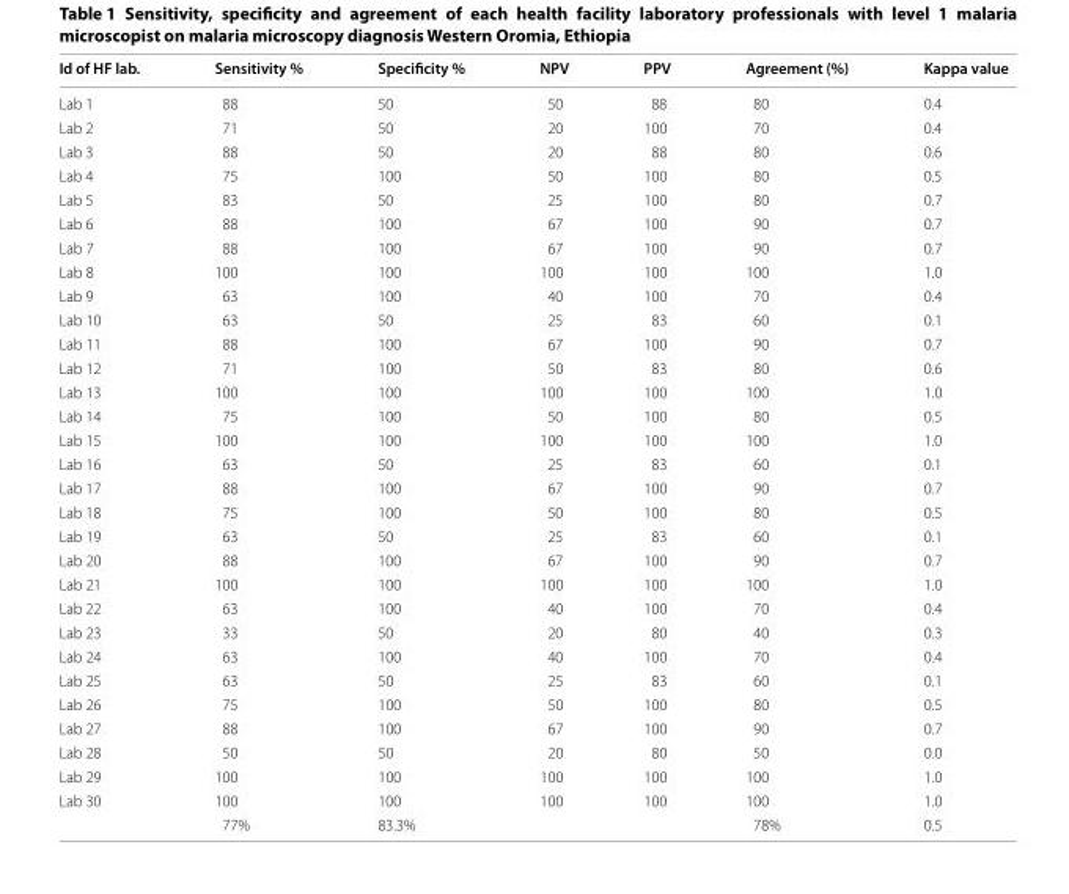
<table><thead><tr><td>Id of HF lab.</td><td>Sensitivity %</td><td>Specificity %</td><td>NPV</td><td>PPV</td><td>Agreement (%)</td><td>Kappa value</td></tr></thead><tbody><tr><td>Lab 1</td><td>88</td><td>50</td><td>50</td><td>88</td><td>80</td><td>0.4</td></tr><tr><td>Lab 2</td><td>71</td><td>50</td><td>20</td><td>100</td><td>70</td><td>0.4</td></tr><tr><td>Lab 3</td><td>88</td><td>50</td><td>20</td><td>88</td><td>80</td><td>0.6</td></tr><tr><td>Lab 4</td><td>75</td><td>100</td><td>50</td><td>100</td><td>80</td><td>0.5</td></tr><tr><td>Lab 5</td><td>83</td><td>50</td><td>25</td><td>100</td><td>80</td><td>0.7</td></tr><tr><td>Lab 6</td><td>88</td><td>100</td><td>67</td><td>100</td><td>90</td><td>0.7</td></tr><tr><td>Lab 7</td><td>88</td><td>100</td><td>67</td><td>100</td><td>90</td><td>0.7</td></tr><tr><td>Lab 8</td><td>100</td><td>100</td><td>100</td><td>100</td><td>100</td><td>1.0</td></tr><tr><td>Lab 9</td><td>63</td><td>100</td><td>40</td><td>100</td><td>70</td><td>0.4</td></tr><tr><td>Lab 10</td><td>63</td><td>50</td><td>25</td><td>83</td><td>60</td><td>0.1</td></tr><tr><td>Lab 11</td><td>88</td><td>100</td><td>67</td><td>100</td><td>90</td><td>0.7</td></tr><tr><td>Lab 12</td><td>71</td><td>100</td><td>50</td><td>83</td><td>80</td><td>0.6</td></tr><tr><td>Lab 13</td><td>100</td><td>100</td><td>100</td><td>100</td><td>100</td><td>1.0</td></tr><tr><td>Lab 14</td><td>75</td><td>100</td><td>50</td><td>100</td><td>80</td><td>0.5</td></tr><tr><td>Lab 15</td><td>100</td><td>100</td><td>100</td><td>100</td><td>100</td><td>1.0</td></tr><tr><td>Lab 16</td><td>63</td><td>50</td><td>25</td><td>83</td><td>60</td><td>0.1</td></tr><tr><td>Lab 17</td><td>88</td><td>100</td><td>67</td><td>100</td><td>90</td><td>0.7</td></tr><tr><td>Lab 18</td><td>75</td><td>100</td><td>50</td><td>100</td><td>80</td><td>0.5</td></tr><tr><td>Lab 19</td><td>63</td><td>50</td><td>25</td><td>83</td><td>60</td><td>0.1</td></tr><tr><td>Lab 20</td><td>88</td><td>100</td><td>67</td><td>100</td><td>90</td><td>0.7</td></tr><tr><td>Lab 21</td><td>100</td><td>100</td><td>100</td><td>100</td><td>100</td><td>1.0</td></tr><tr><td>Lab 22</td><td>63</td><td>100</td><td>40</td><td>100</td><td>70</td><td>0.4</td></tr><tr><td>Lab 23</td><td>33</td><td>50</td><td>20</td><td>80</td><td>40</td><td>0.3</td></tr><tr><td>Lab 24</td><td>63</td><td>100</td><td>40</td><td>100</td><td>70</td><td>0.4</td></tr><tr><td>Lab 25</td><td>63</td><td>50</td><td>25</td><td>83</td><td>60</td><td>0.1</td></tr><tr><td>Lab 26</td><td>75</td><td>100</td><td>50</td><td>100</td><td>80</td><td>0.5</td></tr><tr><td>Lab 27</td><td>88</td><td>100</td><td>67</td><td>100</td><td>90</td><td>0.7</td></tr><tr><td>Lab 28</td><td>50</td><td>50</td><td>20</td><td>80</td><td>50</td><td>0.0</td></tr><tr><td>Lab 29</td><td>100</td><td>100</td><td>100</td><td>100</td><td>100</td><td>1.0</td></tr><tr><td rowspan="2">Lab 30</td><td>100</td><td>100</td><td>100</td><td>100</td><td>100</td><td>1.0</td></tr><tr><td>77%</td><td>83.3%</td><td></td><td></td><td>78%</td><td>0.5</td></tr></tbody></table>